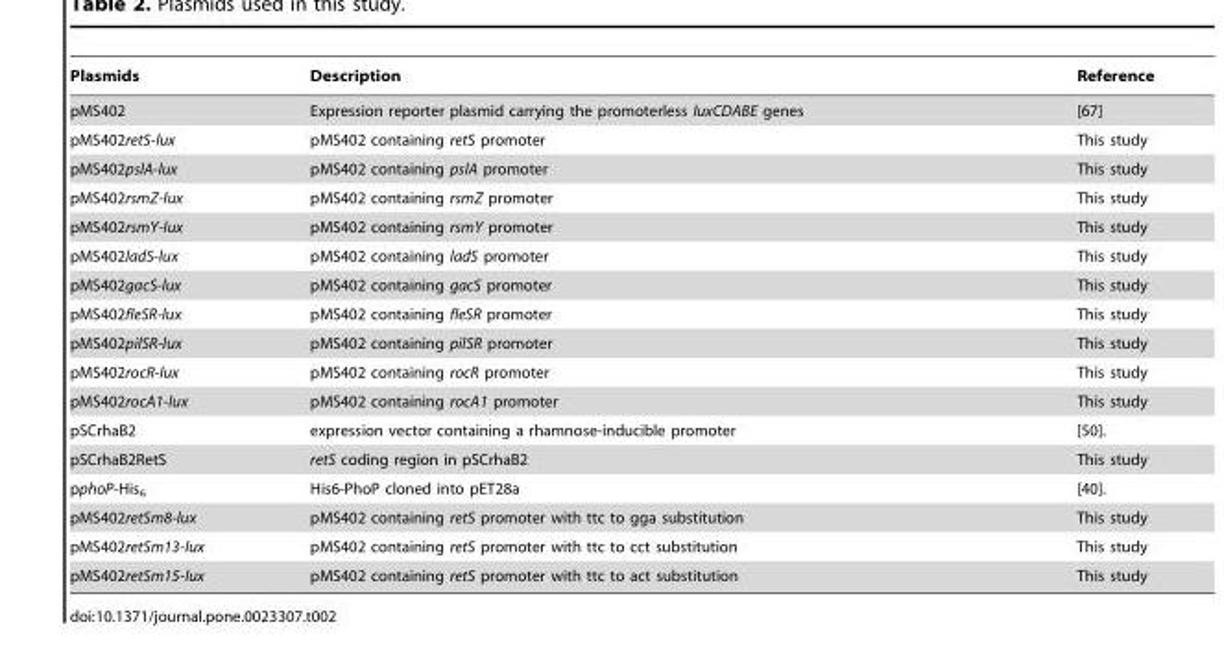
<table><thead><tr><td>Plasmids</td><td>Description</td><td>Reference</td></tr></thead><tbody><tr><td>pMS402</td><td>Expression reporter plasmid carrying the promoterless luxCDABE genes</td><td>[67]</td></tr><tr><td>pMS402retS-lux</td><td>pMS402 containing retS promoter</td><td>This study</td></tr><tr><td>pMS402pslA-lux</td><td>pMS402 containing pslA promoter</td><td>This study</td></tr><tr><td>pMS402rsmZ-lux</td><td>pMS402 containing rsmZ promoter</td><td>This study</td></tr><tr><td>pMS402rsmY-lux</td><td>pMS402 containing rsmY promoter</td><td>This study</td></tr><tr><td>pMS402ladS-lux</td><td>pMS402 containing ladS promoter</td><td>This study</td></tr><tr><td>pMS402gacS-lux</td><td>pMS402 containing gacS promoter</td><td>This study</td></tr><tr><td>pMS402fleSR-lux</td><td>pMS402 containing fleSR promoter</td><td>This study</td></tr><tr><td>pMS402pilSR-lux</td><td>pMS402 containing pilSR promoter</td><td>This study</td></tr><tr><td>pMS402rocR-lux</td><td>pMS402 containing rocR promoter</td><td>This study</td></tr><tr><td>pMS402rocA1-lux</td><td>pMS402 containing rocA1 promoter</td><td>This study</td></tr><tr><td>pSCrhaB2</td><td>expression vector containing a rhamnose-inducible promoter</td><td>[50].</td></tr><tr><td>pSCrhaB2RetS</td><td>retS coding region in pSCrhaB2</td><td>This study</td></tr><tr><td>pphoP-His<sub>6</sub></td><td>His6-PhoP cloned into pET28a</td><td>[40].</td></tr><tr><td>pMS402retSm8-lux</td><td>pMS402 containing retS promoter with ttc to gga substitution</td><td>This study</td></tr><tr><td>pMS402retSm13-lux</td><td>pMS402 containing retS promoter with ttc to cct substitution</td><td>This study</td></tr><tr><td>pMS402retSm15-lux</td><td>pMS402 containing retS promoter with ttc to act substitution</td><td>This study</td></tr></tbody></table>